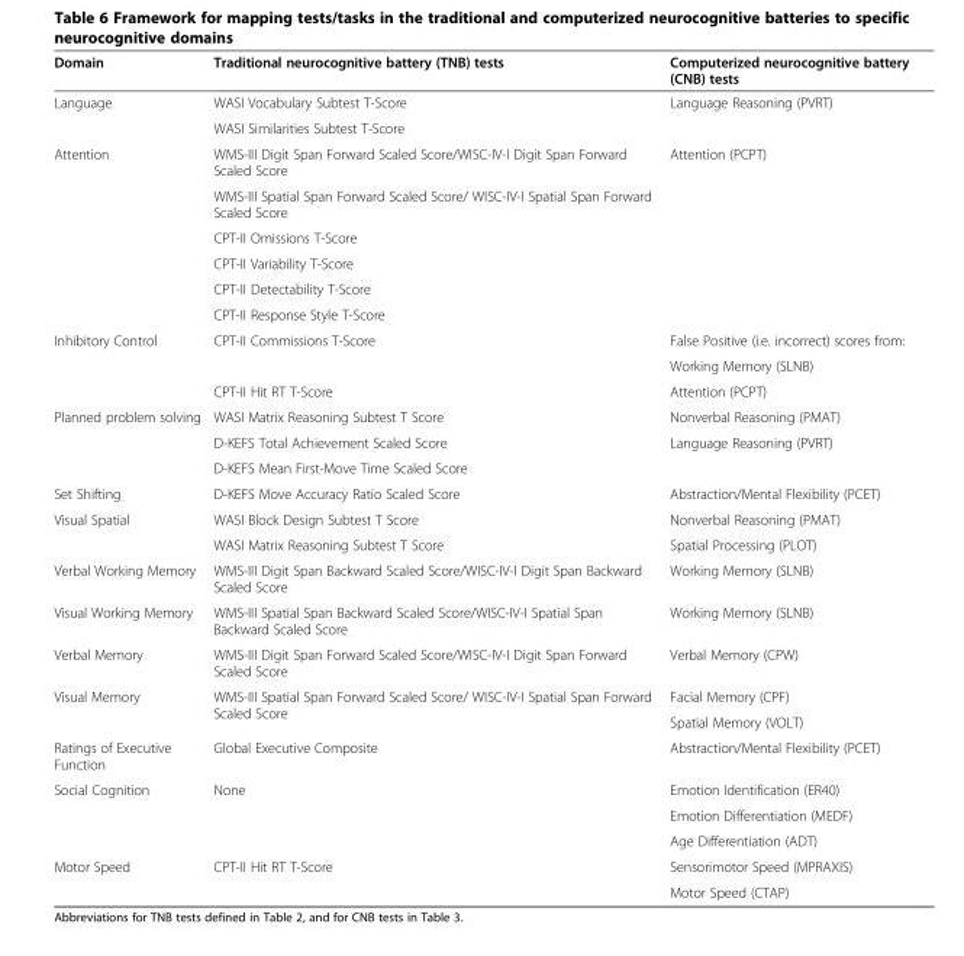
<table><thead><tr><td>Domain</td><td>Traditional neurocognitive battery (TNB) tests</td><td>Computerized neurocognitive battery (CNB) tests</td></tr></thead><tbody><tr><td rowspan="2">Language</td><td>WASI Vocabulary Subtest T-Score</td><td rowspan="2">Language Reasoning (PVRT)</td></tr><tr><td>WASI Similarities Subtest T-Score</td></tr><tr><td rowspan="6">Attention</td><td>WMS-III Digit Span Forward Scaled Score/WISC-IV-I Digit Span Forward Scaled Score</td><td rowspan="6">Attention (PCPT)</td></tr><tr><td>WMS-III Spatial Span Forward Scaled Score/ WISC-IV-I Spatial Span Forward Scaled Score</td></tr><tr><td>CPT-II Omissions T-Score</td></tr><tr><td>CPT-II Variability T-Score</td></tr><tr><td>CPT-II Detectability T-Score</td></tr><tr><td>CPT-II Response Style T-Score</td></tr><tr><td rowspan="3">Inhibitory Control</td><td rowspan="2">CPT-II Commissions T-Score</td><td>False Positive (i.e. incorrect) scores from:</td></tr><tr><td>Working Memory (SLNB)</td></tr><tr><td>CPT-II Hit RT T-Score</td><td>Attention (PCPT)</td></tr><tr><td rowspan="3">Planned problem solving</td><td>WASI Matrix Reasoning Subtest T Score</td><td>Nonverbal Reasoning (PMAT)</td></tr><tr><td>D-KEFS Total Achievement Scaled Score</td><td>Language Reasoning (PVRT)</td></tr><tr><td>D-KEFS Mean First-Move Time Scaled Score</td><td></td></tr><tr><td>Set Shifting</td><td>D-KEFS Move Accuracy Ratio Scaled Score</td><td>Abstraction/Mental Flexibility (PCET)</td></tr><tr><td rowspan="2">Visual Spatial</td><td>WASI Block Design Subtest T Score</td><td>Nonverbal Reasoning (PMAT)</td></tr><tr><td>WASI Matrix Reasoning Subtest T Score</td><td>Spatial Processing (PLOT)</td></tr><tr><td>Verbal Working Memory</td><td>WMS-III Digit Span Backward Scaled Score/WISC-IV-I Digit Span Backward Scaled Score</td><td>Working Memory (SLNB)</td></tr><tr><td>Visual Working Memory</td><td>WMS-III Spatial Span Backward Scaled Score/WISC-IV-I Spatial Span Backward Scaled Score</td><td>Working Memory (SLNB)</td></tr><tr><td>Verbal Memory</td><td>WMS-III Digit Span Forward Scaled Score/WISC-IV-I Digit Span Forward Scaled Score</td><td>Verbal Memory (CPW)</td></tr><tr><td rowspan="2">Visual Memory</td><td rowspan="2">WMS-III Spatial Span Forward Scaled Score/ WISC-IV-I Spatial Span Forward Scaled Score</td><td>Facial Memory (CPF)</td></tr><tr><td>Spatial Memory (VOLT)</td></tr><tr><td>Ratings of Executive Function</td><td>Global Executive Composite</td><td>Abstraction/Mental Flexibility (PCET)</td></tr><tr><td rowspan="3">Social Cognition</td><td rowspan="3">None</td><td>Emotion Identification (ER40)</td></tr><tr><td>Emotion Differentiation (MEDF)</td></tr><tr><td>Age Differentiation (ADT)</td></tr><tr><td rowspan="2">Motor Speed</td><td rowspan="2">CPT-II Hit RT T-Score</td><td>Sensorimotor Speed (MPRAXIS)</td></tr><tr><td>Motor Speed (CTAP)</td></tr></tbody></table>